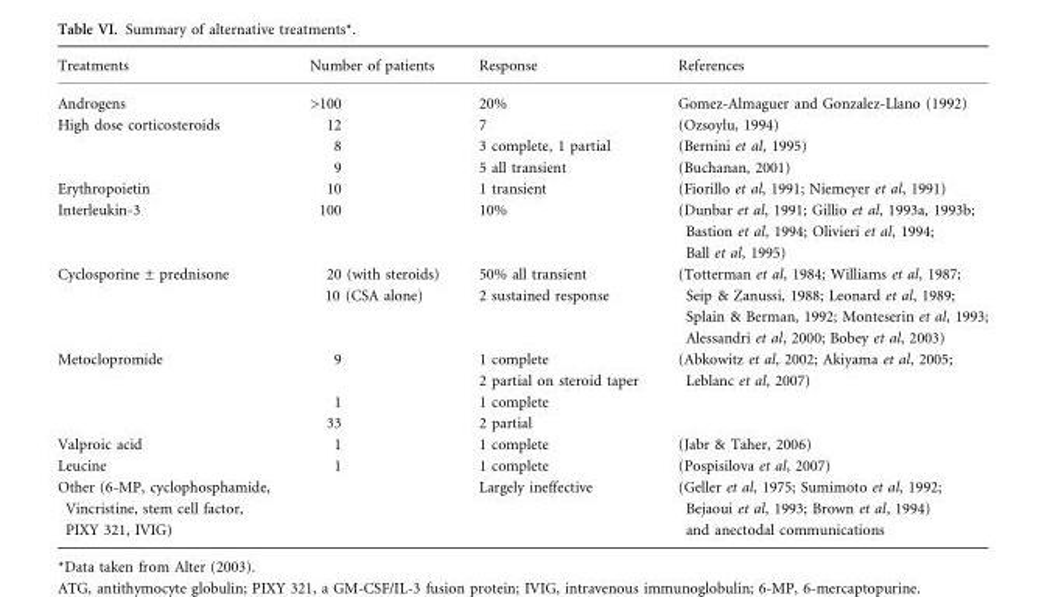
<table><thead><tr><td>Treatments</td><td>Number of patients</td><td>Response</td><td>References</td></tr></thead><tbody><tr><td>Androgens</td><td>&gt;100</td><td>20%</td><td>Gomez-Almaguer and Gonzalez-Llano (1992)</td></tr><tr><td rowspan="3">High dose corticosteroids</td><td>12</td><td>7</td><td>(Ozsoylu, 1994)</td></tr><tr><td>8</td><td>3 complete, 1 partial</td><td>(Bernini et al, 1995)</td></tr><tr><td>9</td><td>5 all transient</td><td>(Buchanan, 2001)</td></tr><tr><td>Erythropoietin</td><td>10</td><td>1 transient</td><td>(Fiorillo et al, 1991; Niemeyer et al, 1991)</td></tr><tr><td>Interleukin-3</td><td>100</td><td>10%</td><td>(Dunbar et al, 1991; Gillio et al, 1993a, 1993b; Bastion et al, 1994; Olivieri et al, 1994; Ball et al, 1995)</td></tr><tr><td>Cyclosporine ± prednisone</td><td>20 (with steroids) 10 (CSA alone)</td><td>50% all transient 2 sustained response</td><td>(Totterman et al, 1984; Williams et al, 1987; Seip &amp; Zanussi, 1988; Leonard et al, 1989; Splain &amp; Berman, 1992; Monteserin et al, 1993; Alessandri et al, 2000; Bobey et al, 2003)</td></tr><tr><td rowspan="3">Metoclopromide</td><td>9</td><td>1 complete 2 partial on steroid taper</td><td>(Abkowitz et al, 2002; Akiyama et al, 2005; Leblanc et al, 2007)</td></tr><tr><td>1</td><td>1 complete</td><td></td></tr><tr><td>33</td><td>2 partial</td><td></td></tr><tr><td>Valproic acid</td><td>1</td><td>1 complete</td><td>(Jabr &amp; Taher, 2006)</td></tr><tr><td>Leucine</td><td>1</td><td>1 complete</td><td>(Pospisilova et al, 2007)</td></tr><tr><td>Other (6-MP, cyclophosphamide, Vincristine, stem cell factor, PIXY 321, IVIG)</td><td></td><td>Largely ineffective</td><td>(Geller et al, 1975; Sumimoto et al, 1992; Bejaoui et al, 1993; Brown et al, 1994) and anectodal communications</td></tr></tbody></table>